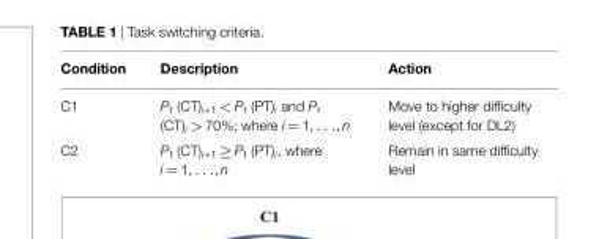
<table><thead><tr><td>Condition</td><td>Description</td><td>Action</td></tr></thead><tbody><tr><td>C1</td><td>P<sub>f</sub> (CT)<sub>i+1</sub> &lt; P<sub>f</sub> (PT)<sub>i</sub> and P<sub>f</sub> (CT)<sub>i</sub> &gt; 70%; where i = 1, . . ., n</td><td>Move to higher difficulty level (except for DL2)</td></tr><tr><td>C2</td><td>P<sub>f</sub> (CT)<sub>i+1</sub> ≥ P<sub>f</sub> (PT)<sub>i</sub>, where i = 1, . . ., n</td><td>Remain in same difficulty level</td></tr></tbody></table>